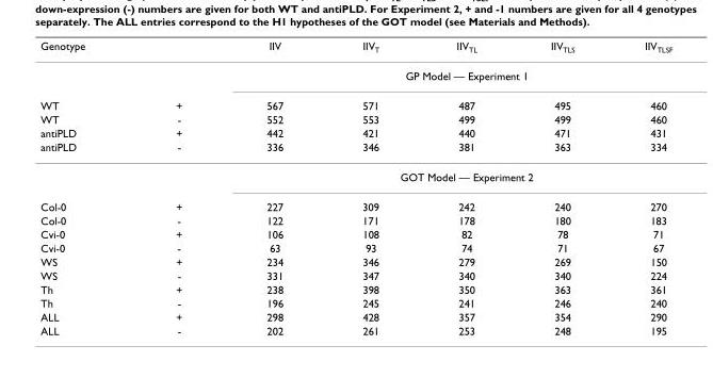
<table><thead><tr><td>Genotype</td><td></td><td>IIV</td><td>IIVT</td><td>IIVTL</td><td>IIVTLS</td><td>IIVTLSF</td></tr></thead><tbody><tr><td></td><td></td><td colspan="5">GP Model — Experiment 1</td></tr><tr><td>WT</td><td>+</td><td>567</td><td>571</td><td>487</td><td>495</td><td>460</td></tr><tr><td>WT</td><td>-</td><td>552</td><td>553</td><td>499</td><td>499</td><td>460</td></tr><tr><td>antiPLD</td><td>+</td><td>442</td><td>421</td><td>440</td><td>471</td><td>431</td></tr><tr><td rowspan="2">antiPLD</td><td>-</td><td>336</td><td>346</td><td>381</td><td>363</td><td>334</td></tr><tr><td></td><td colspan="5">GOT Model — Experiment 2</td></tr><tr><td>Col-0</td><td>+</td><td>227</td><td>309</td><td>242</td><td>240</td><td>270</td></tr><tr><td>Col-0</td><td>-</td><td>122</td><td>171</td><td>178</td><td>180</td><td>183</td></tr><tr><td>Cvi-0</td><td>+</td><td>106</td><td>108</td><td>82</td><td>78</td><td>71</td></tr><tr><td>Cvi-0</td><td>-</td><td>63</td><td>93</td><td>74</td><td>71</td><td>67</td></tr><tr><td>WS</td><td>+</td><td>234</td><td>346</td><td>279</td><td>269</td><td>150</td></tr><tr><td>WS</td><td>-</td><td>331</td><td>347</td><td>340</td><td>340</td><td>224</td></tr><tr><td>Th</td><td>+</td><td>238</td><td>398</td><td>350</td><td>363</td><td>361</td></tr><tr><td>Th</td><td>-</td><td>196</td><td>245</td><td>241</td><td>246</td><td>240</td></tr><tr><td>ALL</td><td>+</td><td>298</td><td>428</td><td>357</td><td>354</td><td>290</td></tr><tr><td>ALL</td><td>-</td><td>202</td><td>261</td><td>253</td><td>248</td><td>195</td></tr></tbody></table>